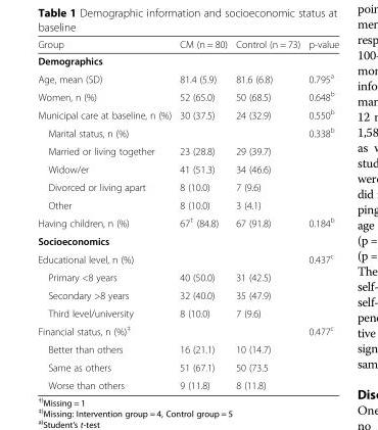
<table><thead><tr><td>Group</td><td>CM (n = 80)</td><td>Control (n = 73)</td><td>p-value</td></tr></thead><tbody><tr><td colspan="4">Demographics</td></tr><tr><td>Age, mean (SD)</td><td>81.4 (5.9)</td><td>81.6 (6.8)</td><td>0.795<sup>a</sup></td></tr><tr><td>Women, n (%)</td><td>52 (65.0)</td><td>50 (68.5)</td><td>0.648<sup>b</sup></td></tr><tr><td>Municipal care at baseline, n (%)</td><td>30 (37.5)</td><td>24 (32.9)</td><td>0.550<sup>b</sup></td></tr><tr><td>Marital status, n (%)</td><td></td><td></td><td>0.338<sup>b</sup></td></tr><tr><td>Married or living together</td><td>23 (28.8)</td><td>29 (39.7)</td><td></td></tr><tr><td>Widow/er</td><td>41 (51.3)</td><td>34 (46.6)</td><td></td></tr><tr><td>Divorced or living apart</td><td>8 (10.0)</td><td>7 (9.6)</td><td></td></tr><tr><td>Other</td><td>8 (10.0)</td><td>3 (4.1)</td><td></td></tr><tr><td>Having children, n (%)</td><td>67<sup>†</sup> (84.8)</td><td>67 (91.8)</td><td>0.184<sup>b</sup></td></tr><tr><td colspan="4">Socioeconomics</td></tr><tr><td>Educational level, n (%)</td><td></td><td></td><td>0.437<sup>c</sup></td></tr><tr><td>Primary &lt;8 years</td><td>40 (50.0)</td><td>31 (42.5)</td><td></td></tr><tr><td>Secondary &gt;8 years</td><td>32 (40.0)</td><td>35 (47.9)</td><td></td></tr><tr><td>Third level/university</td><td>8 (10.0)</td><td>7 (9.6)</td><td></td></tr><tr><td>Financial status, n (%)<sup>‡</sup></td><td></td><td></td><td>0.477<sup>c</sup></td></tr><tr><td>Better than others</td><td>16 (21.1)</td><td>10 (14.7)</td><td></td></tr><tr><td>Same as others</td><td>51 (67.1)</td><td>50 (73.5</td><td></td></tr><tr><td>Worse than others</td><td>9 (11.8)</td><td>8 (11.8)</td><td></td></tr></tbody></table>